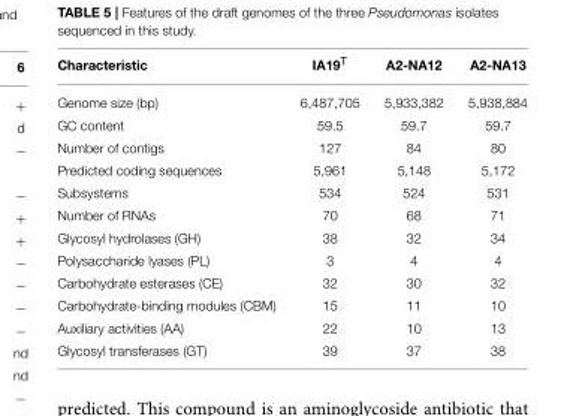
<table><thead><tr><td>Characteristic</td><td>IA19<sup>T</sup></td><td>A2-NA12</td><td>A2-NA13</td></tr></thead><tbody><tr><td>Genome size (bp)</td><td>6,487,705</td><td>5,933,382</td><td>5,938,884</td></tr><tr><td>GC content</td><td>59.5</td><td>59.7</td><td>59.7</td></tr><tr><td>Number of contigs</td><td>127</td><td>84</td><td>80</td></tr><tr><td>Predicted coding sequences</td><td>5,961</td><td>5,148</td><td>5,172</td></tr><tr><td>Subsystems</td><td>534</td><td>524</td><td>531</td></tr><tr><td>Number of RNAs</td><td>70</td><td>68</td><td>71</td></tr><tr><td>Glycosyl hydrolases (GH)</td><td>38</td><td>32</td><td>34</td></tr><tr><td>Polysaccharide lyases (PL)</td><td>3</td><td>4</td><td>4</td></tr><tr><td>Carbohydrate esterases (CE)</td><td>32</td><td>30</td><td>32</td></tr><tr><td>Carbohydrate-binding modules (CBM)</td><td>15</td><td>11</td><td>10</td></tr><tr><td>Auxiliary activities (AA)</td><td>22</td><td>10</td><td>13</td></tr><tr><td>Glycosyl transferases (GT)</td><td>39</td><td>37</td><td>38</td></tr></tbody></table>